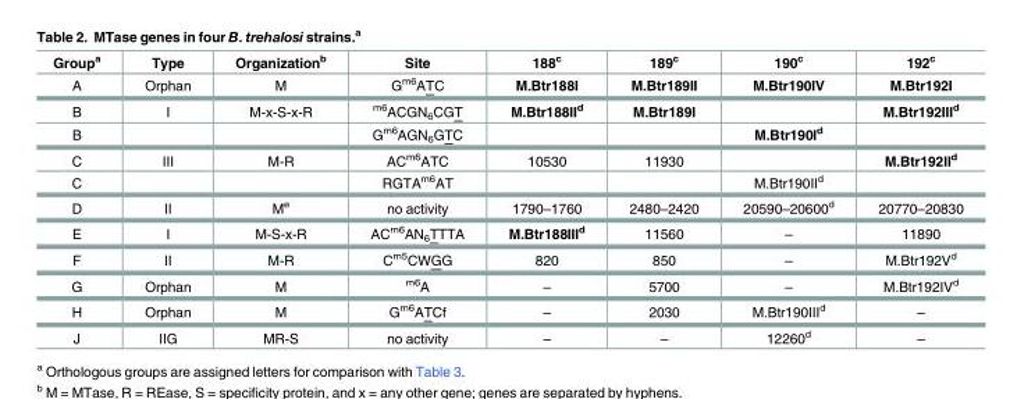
<table><thead><tr><td>Group<sup>a</sup></td><td>Type</td><td>Organization<sup>b</sup></td><td>Site</td><td>188<sup>c</sup></td><td>189<sup>c</sup></td><td>190<sup>c</sup></td><td>192<sup>c</sup></td></tr></thead><tbody><tr><td>A</td><td>Orphan</td><td>M</td><td>G<sup>m6</sup>ATC</td><td>M.Btr188I</td><td>M.Btr189II</td><td>M.Btr190IV</td><td>M.Btr192I</td></tr><tr><td>B</td><td>I</td><td>M-x-S-x-R</td><td><sup>m6</sup>ACGN<sub>6</sub>CGT</td><td>M.Btr188II<sup>d</sup></td><td>M.Btr189I</td><td></td><td>M.Btr192III<sup>d</sup></td></tr><tr><td>B</td><td></td><td></td><td>G<sup>m6</sup>AGN<sub>6</sub>GTC</td><td></td><td></td><td>M.Btr190I<sup>d</sup></td><td></td></tr><tr><td>C</td><td>III</td><td>M-R</td><td>AC<sup>m6</sup>ATC</td><td>10530</td><td>11930</td><td></td><td>M.Btr192II<sup>d</sup></td></tr><tr><td>C</td><td></td><td></td><td>RGTA<sup>m6</sup>AT</td><td></td><td></td><td>M.Btr190II<sup>d</sup></td><td></td></tr><tr><td>D</td><td>II</td><td>M<sup>e</sup></td><td>no activity</td><td>1790–1760</td><td>2480–2420</td><td>20590–20600<sup>d</sup></td><td>20770–20830</td></tr><tr><td>E</td><td>I</td><td>M-S-x-R</td><td>AC<sup>m6</sup>AN<sub>6</sub>TTTA</td><td>M.Btr188III<sup>d</sup></td><td>11560</td><td>–</td><td>11890</td></tr><tr><td>F</td><td>II</td><td>M-R</td><td>C<sup>m5</sup>CWGG</td><td>820</td><td>850</td><td>–</td><td>M.Btr192V<sup>d</sup></td></tr><tr><td>G</td><td>Orphan</td><td>M</td><td><sup>m6</sup>A</td><td>–</td><td>5700</td><td>–</td><td>M.Btr192IV<sup>d</sup></td></tr><tr><td>H</td><td>Orphan</td><td>M</td><td>G<sup>m6</sup>ATC<sup>f</sup></td><td>–</td><td>2030</td><td>M.Btr190III<sup>d</sup></td><td>–</td></tr><tr><td>J</td><td>IIG</td><td>MR-S</td><td>no activity</td><td>–</td><td>–</td><td>12260<sup>d</sup></td><td>–</td></tr></tbody></table>